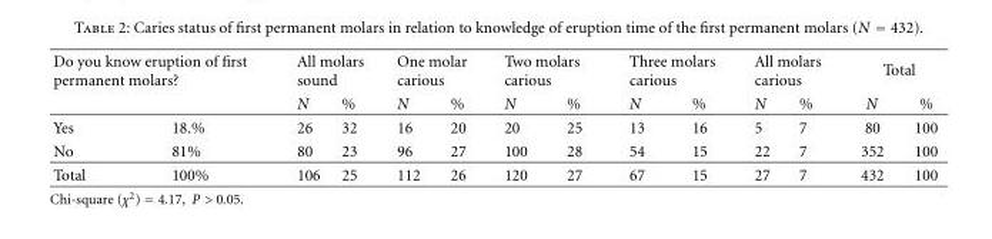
<table><thead><tr><td colspan="2">Do you know eruption of first permanent molars?</td><td colspan="2">All molars sound</td><td colspan="2">One molar carious</td><td colspan="2">Two molars carious</td><td colspan="2">Three molars carious</td><td colspan="2">All molars carious</td><td colspan="2">Total</td></tr><tr><td></td><td></td><td>N</td><td>%</td><td>N</td><td>%</td><td>N</td><td>%</td><td>N</td><td>%</td><td>N</td><td>%</td><td>N</td><td>%</td></tr></thead><tbody><tr><td>Yes</td><td>18.%</td><td>26</td><td>32</td><td>16</td><td>20</td><td>20</td><td>25</td><td>13</td><td>16</td><td>5</td><td>7</td><td>80</td><td>100</td></tr><tr><td>No</td><td>81%</td><td>80</td><td>23</td><td>96</td><td>27</td><td>100</td><td>28</td><td>54</td><td>15</td><td>22</td><td>7</td><td>352</td><td>100</td></tr><tr><td>Total</td><td>100%</td><td>106</td><td>25</td><td>112</td><td>26</td><td>120</td><td>27</td><td>67</td><td>15</td><td>27</td><td>7</td><td>432</td><td>100</td></tr></tbody></table>